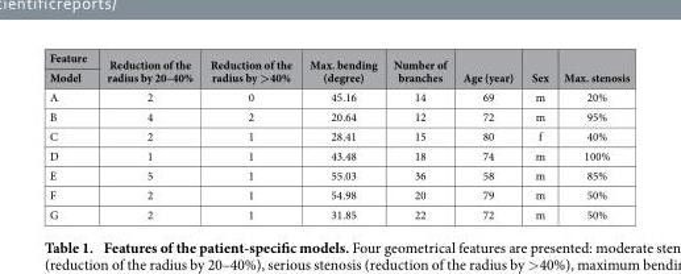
<table><thead><tr><td rowspan="2">Feature Model</td><td rowspan="2">Reduction of the radius by 20–40%</td><td rowspan="2">Reduction of the radius by &gt;40%</td><td rowspan="2">Max. bending (degree)</td><td rowspan="2">Number of branches</td><td rowspan="2">Age (year)</td><td rowspan="2">Sex</td><td rowspan="2">Max. stenosis</td></tr><tr></tr></thead><tbody><tr><td>A</td><td>2</td><td>0</td><td>45.16</td><td>14</td><td>69</td><td>m</td><td>20%</td></tr><tr><td>B</td><td>4</td><td>2</td><td>20.64</td><td>12</td><td>72</td><td>m</td><td>95%</td></tr><tr><td>C</td><td>2</td><td>1</td><td>28.41</td><td>15</td><td>80</td><td>f</td><td>40%</td></tr><tr><td>D</td><td>1</td><td>1</td><td>43.48</td><td>18</td><td>74</td><td>m</td><td>100%</td></tr><tr><td>E</td><td>5</td><td>1</td><td>55.03</td><td>36</td><td>58</td><td>m</td><td>85%</td></tr><tr><td>F</td><td>2</td><td>1</td><td>54.98</td><td>20</td><td>79</td><td>m</td><td>50%</td></tr><tr><td>G</td><td>2</td><td>1</td><td>31.85</td><td>22</td><td>72</td><td>m</td><td>50%</td></tr></tbody></table>